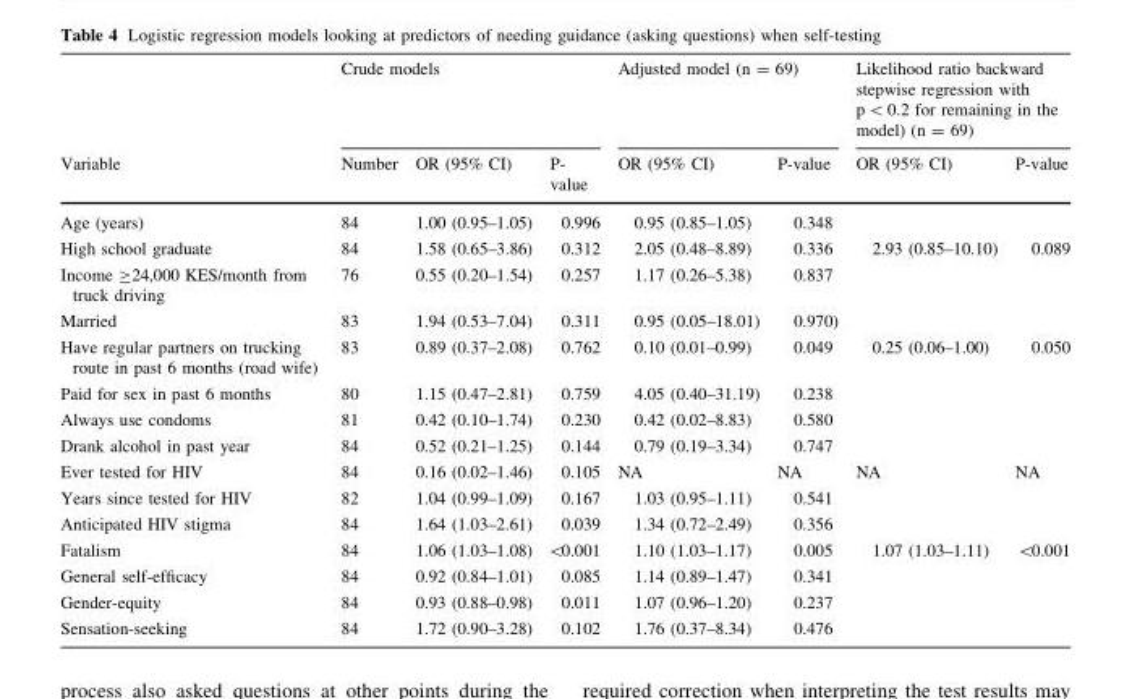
<table><thead><tr><td rowspan="2">Variable</td><td colspan="3">Crude models</td><td colspan="2">Adjusted model (n = 69)</td><td colspan="2">Likelihood ratio backward stepwise regression with p &lt; 0.2 for remaining in the model) (n = 69)</td></tr><tr><td>Number</td><td>OR (95% CI)</td><td>P- value</td><td>OR (95% CI)</td><td>P-value</td><td>OR (95% CI)</td><td>P-value</td></tr></thead><tbody><tr><td>Age (years)</td><td>84</td><td>1.00 (0.95–1.05)</td><td>0.996</td><td>0.95 (0.85–1.05)</td><td>0.348</td><td></td><td></td></tr><tr><td>High school graduate</td><td>84</td><td>1.58 (0.65–3.86)</td><td>0.312</td><td>2.05 (0.48–8.89)</td><td>0.336</td><td>2.93 (0.85–10.10)</td><td>0.089</td></tr><tr><td>Income ≥24,000 KES/month from truck driving</td><td>76</td><td>0.55 (0.20–1.54)</td><td>0.257</td><td>1.17 (0.26–5.38)</td><td>0.837</td><td></td><td></td></tr><tr><td>Married</td><td>83</td><td>1.94 (0.53–7.04)</td><td>0.311</td><td>0.95 (0.05–18.01)</td><td>0.970)</td><td></td><td></td></tr><tr><td>Have regular partners on trucking route in past 6 months (road wife)</td><td>83</td><td>0.89 (0.37–2.08)</td><td>0.762</td><td>0.10 (0.01–0.99)</td><td>0.049</td><td>0.25 (0.06–1.00)</td><td>0.050</td></tr><tr><td>Paid for sex in past 6 months</td><td>80</td><td>1.15 (0.47–2.81)</td><td>0.759</td><td>4.05 (0.40–31.19)</td><td>0.238</td><td></td><td></td></tr><tr><td>Always use condoms</td><td>81</td><td>0.42 (0.10–1.74)</td><td>0.230</td><td>0.42 (0.02–8.83)</td><td>0.580</td><td></td><td></td></tr><tr><td>Drank alcohol in past year</td><td>84</td><td>0.52 (0.21–1.25)</td><td>0.144</td><td>0.79 (0.19–3.34)</td><td>0.747</td><td></td><td></td></tr><tr><td>Ever tested for HIV</td><td>84</td><td>0.16 (0.02–1.46)</td><td>0.105</td><td>NA</td><td>NA</td><td>NA</td><td>NA</td></tr><tr><td>Years since tested for HIV</td><td>82</td><td>1.04 (0.99–1.09)</td><td>0.167</td><td>1.03 (0.95–1.11)</td><td>0.541</td><td></td><td></td></tr><tr><td>Anticipated HIV stigma</td><td>84</td><td>1.64 (1.03–2.61)</td><td>0.039</td><td>1.34 (0.72–2.49)</td><td>0.356</td><td></td><td></td></tr><tr><td>Fatalism</td><td>84</td><td>1.06 (1.03–1.08)</td><td>&lt;0.001</td><td>1.10 (1.03–1.17)</td><td>0.005</td><td>1.07 (1.03–1.11)</td><td>&lt;0.001</td></tr><tr><td>General self-efficacy</td><td>84</td><td>0.92 (0.84–1.01)</td><td>0.085</td><td>1.14 (0.89–1.47)</td><td>0.341</td><td></td><td></td></tr><tr><td>Gender-equity</td><td>84</td><td>0.93 (0.88–0.98)</td><td>0.011</td><td>1.07 (0.96–1.20)</td><td>0.237</td><td></td><td></td></tr><tr><td>Sensation-seeking</td><td>84</td><td>1.72 (0.90–3.28)</td><td>0.102</td><td>1.76 (0.37–8.34)</td><td>0.476</td><td></td><td></td></tr></tbody></table>